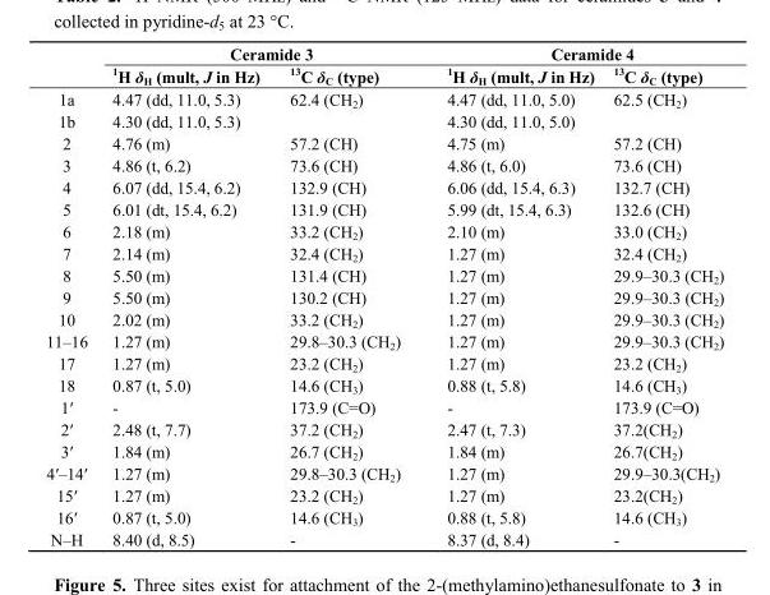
<table><thead><tr><td rowspan="2"></td><td colspan="2">Ceramide 3</td><td colspan="2">Ceramide 4</td></tr><tr><td><sup>1</sup>H δ<sub>H</sub> (mult, J in Hz)</td><td><sup>13</sup>C δ<sub>C</sub> (type)</td><td><sup>1</sup>H δ<sub>H</sub> (mult, J in Hz)</td><td><sup>13</sup>C δ<sub>C</sub> (type)</td></tr></thead><tbody><tr><td>1a</td><td>4.47 (dd, 11.0, 5.3)</td><td rowspan="2">62.4 (CH<sub>2</sub>)</td><td>4.47 (dd, 11.0, 5.0)</td><td rowspan="2">62.5 (CH<sub>2</sub>)</td></tr><tr><td>1b</td><td>4.30 (dd, 11.0, 5.3)</td><td>4.30 (dd, 11.0, 5.0)</td></tr><tr><td>2</td><td>4.76 (m)</td><td>57.2 (CH)</td><td>4.75 (m)</td><td>57.2 (CH)</td></tr><tr><td>3</td><td>4.86 (t, 6.2)</td><td>73.6 (CH)</td><td>4.86 (t, 6.0)</td><td>73.6 (CH)</td></tr><tr><td>4</td><td>6.07 (dd, 15.4, 6.2)</td><td>132.9 (CH)</td><td>6.06 (dd, 15.4, 6.3)</td><td>132.7 (CH)</td></tr><tr><td>5</td><td>6.01 (dt, 15.4, 6.2)</td><td>131.9 (CH)</td><td>5.99 (dt, 15.4, 6.3)</td><td>132.6 (CH)</td></tr><tr><td>6</td><td>2.18 (m)</td><td>33.2 (CH<sub>2</sub>)</td><td>2.10 (m)</td><td>33.0 (CH<sub>2</sub>)</td></tr><tr><td>7</td><td>2.14 (m)</td><td>32.4 (CH<sub>2</sub>)</td><td>1.27 (m)</td><td>32.4 (CH<sub>2</sub>)</td></tr><tr><td>8</td><td>5.50 (m)</td><td>131.4 (CH)</td><td>1.27 (m)</td><td>29.9–30.3 (CH<sub>2</sub>)</td></tr><tr><td>9</td><td>5.50 (m)</td><td>130.2 (CH)</td><td>1.27 (m)</td><td>29.9–30.3 (CH<sub>2</sub>)</td></tr><tr><td>10</td><td>2.02 (m)</td><td>33.2 (CH<sub>2</sub>)</td><td>1.27 (m)</td><td>29.9–30.3 (CH<sub>2</sub>)</td></tr><tr><td>11–16</td><td>1.27 (m)</td><td>29.8–30.3 (CH<sub>2</sub>)</td><td>1.27 (m)</td><td>29.9–30.3 (CH<sub>2</sub>)</td></tr><tr><td>17</td><td>1.27 (m)</td><td>23.2 (CH<sub>2</sub>)</td><td>1.27 (m)</td><td>23.2 (CH<sub>2</sub>)</td></tr><tr><td>18</td><td>0.87 (t, 5.0)</td><td>14.6 (CH<sub>3</sub>)</td><td>0.88 (t, 5.8)</td><td>14.6 (CH<sub>3</sub>)</td></tr><tr><td>1′</td><td>-</td><td>173.9 (C=O)</td><td>-</td><td>173.9 (C=O)</td></tr><tr><td>2′</td><td>2.48 (t, 7.7)</td><td>37.2 (CH<sub>2</sub>)</td><td>2.47 (t, 7.3)</td><td>37.2(CH<sub>2</sub>)</td></tr><tr><td>3′</td><td>1.84 (m)</td><td>26.7 (CH<sub>2</sub>)</td><td>1.84 (m)</td><td>26.7(CH<sub>2</sub>)</td></tr><tr><td>4′–14′</td><td>1.27 (m)</td><td>29.8–30.3 (CH<sub>2</sub>)</td><td>1.27 (m)</td><td>29.9–30.3(CH<sub>2</sub>)</td></tr><tr><td>15′</td><td>1.27 (m)</td><td>23.2 (CH<sub>2</sub>)</td><td>1.27 (m)</td><td>23.2(CH<sub>2</sub>)</td></tr><tr><td>16′</td><td>0.87 (t, 5.0)</td><td>14.6 (CH<sub>3</sub>)</td><td>0.88 (t, 5.8)</td><td>14.6 (CH<sub>3</sub>)</td></tr><tr><td>N–H</td><td>8.40 (d, 8.5)</td><td>-</td><td>8.37 (d, 8.4)</td><td>-</td></tr></tbody></table>